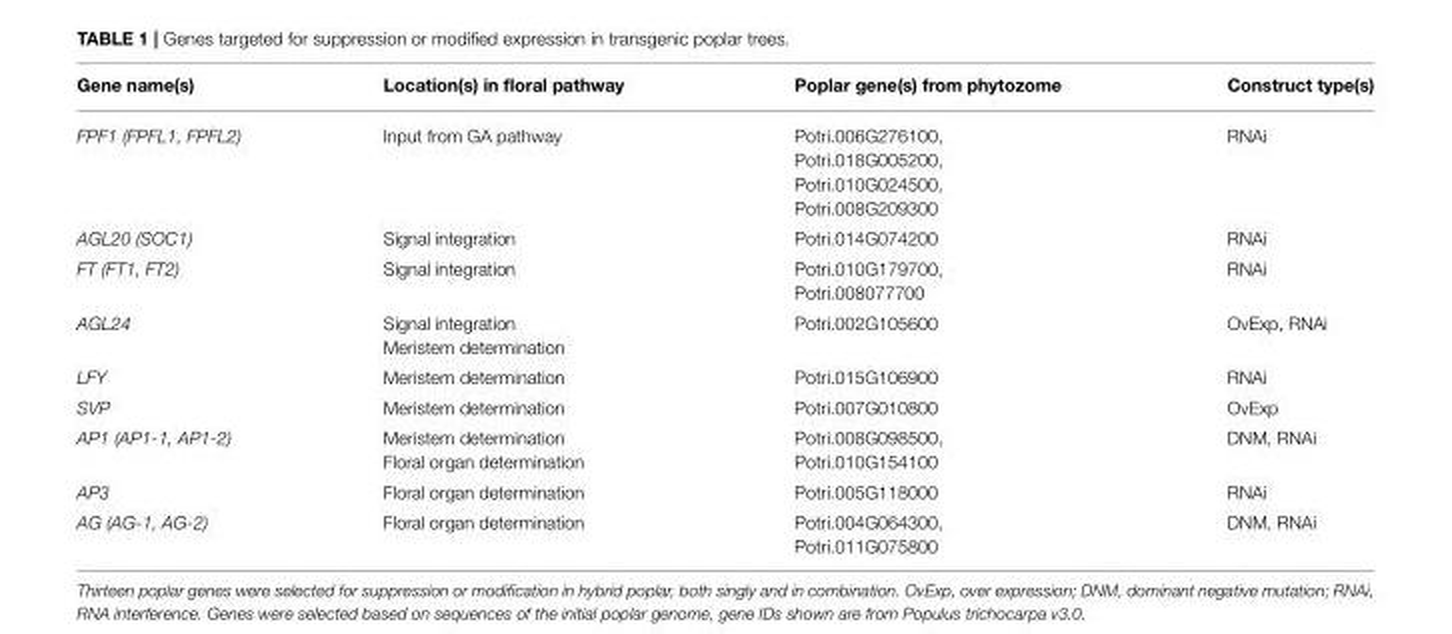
<table><thead><tr><td>Gene name(s)</td><td>Location(s) in floral pathway</td><td>Poplar gene(s) from phytozome</td><td>Construct type(s)</td></tr></thead><tbody><tr><td>FPF1 (FPFL1, FPFL2)</td><td>Input from GA pathway</td><td>Potri.006G276100, Potri.018G005200, Potri.010G024500, Potri.008G209300</td><td>RNAi</td></tr><tr><td>AGL20 (SOC1)</td><td>Signal integration</td><td>Potri.014G074200</td><td>RNAi</td></tr><tr><td>FT (FT1, FT2)</td><td>Signal integration</td><td>Potri.010G179700, Potri.008077700</td><td>RNAi</td></tr><tr><td>AGL24</td><td>Signal integration Meristem determination</td><td>Potri.002G105600</td><td>OvExp, RNAi</td></tr><tr><td>LFY</td><td>Meristem determination</td><td>Potri.015G106900</td><td>RNAi</td></tr><tr><td>SVP</td><td>Meristem determination</td><td>Potri.007G010800</td><td>OvExp</td></tr><tr><td>AP1 (AP1-1, AP1-2)</td><td>Meristem determination Floral organ determination</td><td>Potri.008G098500, Potri.010G154100</td><td>DNM, RNAi</td></tr><tr><td>AP3</td><td>Floral organ determination</td><td>Potri.005G118000</td><td>RNAi</td></tr><tr><td>AG (AG-1, AG-2)</td><td>Floral organ determination</td><td>Potri.004G064300, Potri.011G075800</td><td>DNM, RNAi</td></tr></tbody></table>